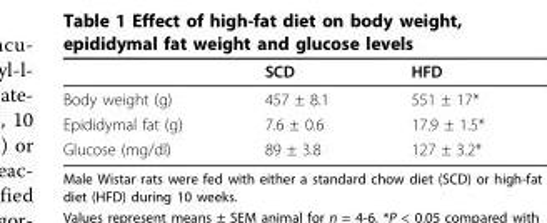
<table><thead><tr><td></td><td>SCD</td><td>HFD</td></tr></thead><tbody><tr><td>Body weight (g)</td><td>457 ± 8.1</td><td>551 ± 17*</td></tr><tr><td>Epididymal fat (g)</td><td>7.6 ± 0.6</td><td>17.9 ± 1.5*</td></tr><tr><td>Glucose (mg/dl)</td><td>89 ± 3.8</td><td>127 ± 3.2*</td></tr></tbody></table>